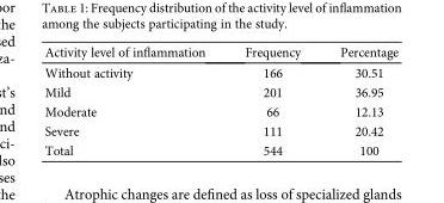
<table><thead><tr><td>Activity level of inflammation</td><td>Frequency</td><td>Percentage</td></tr></thead><tbody><tr><td>Without activity</td><td>166</td><td>30.51</td></tr><tr><td>Mild</td><td>201</td><td>36.95</td></tr><tr><td>Moderate</td><td>66</td><td>12.13</td></tr><tr><td>Severe</td><td>111</td><td>20.42</td></tr><tr><td>Total</td><td>544</td><td>100</td></tr></tbody></table>